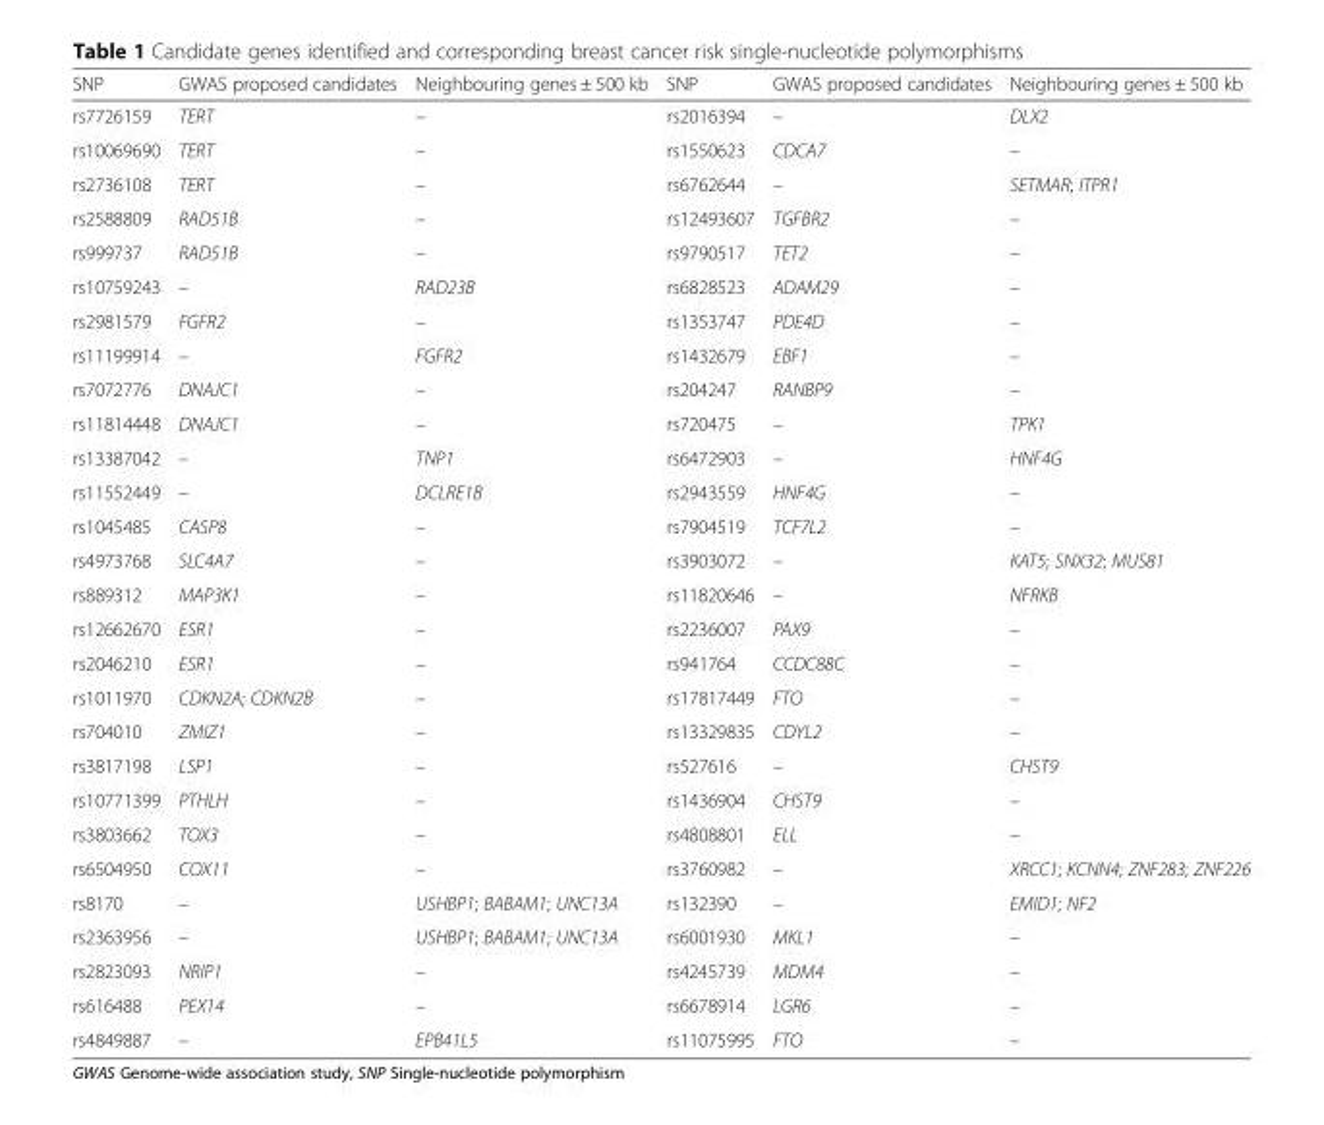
<table><thead><tr><td>SNP</td><td>GWAS proposed candidates</td><td>Neighbouring genes ± 500 kb</td><td>SNP</td><td>GWAS proposed candidates</td><td>Neighbouring genes ± 500 kb</td></tr></thead><tbody><tr><td>rs7726159</td><td>TERT</td><td>–</td><td>rs2016394</td><td>–</td><td>DLX2</td></tr><tr><td>rs10069690</td><td>TERT</td><td>–</td><td>rs1550623</td><td>CDCA7</td><td>–</td></tr><tr><td>rs2736108</td><td>TERT</td><td>–</td><td>rs6762644</td><td>–</td><td>SETMAR; ITPR1</td></tr><tr><td>rs2588809</td><td>RAD51B</td><td>–</td><td>rs12493607</td><td>TGFBR2</td><td>–</td></tr><tr><td>rs999737</td><td>RAD51B</td><td>–</td><td>rs9790517</td><td>TET2</td><td>–</td></tr><tr><td>rs10759243</td><td>–</td><td>RAD23B</td><td>rs6828523</td><td>ADAM29</td><td>–</td></tr><tr><td>rs2981579</td><td>FGFR2</td><td>–</td><td>rs1353747</td><td>PDE4D</td><td>–</td></tr><tr><td>rs11199914</td><td>–</td><td>FGFR2</td><td>rs1432679</td><td>EBF1</td><td>–</td></tr><tr><td>rs7072776</td><td>DNAJC1</td><td>–</td><td>rs204247</td><td>RANBP9</td><td>–</td></tr><tr><td>rs11814448</td><td>DNAJC1</td><td>–</td><td>rs720475</td><td>–</td><td>TPK1</td></tr><tr><td>rs13387042</td><td>–</td><td>TNP1</td><td>rs6472903</td><td>–</td><td>HNF4G</td></tr><tr><td>rs11552449</td><td>–</td><td>DCLRE1B</td><td>rs2943559</td><td>HNF4G</td><td>–</td></tr><tr><td>rs1045485</td><td>CASP8</td><td>–</td><td>rs7904519</td><td>TCF7L2</td><td>–</td></tr><tr><td>rs4973768</td><td>SLC4A7</td><td>–</td><td>rs3903072</td><td>–</td><td>KAT5; SNX32; MUS81</td></tr><tr><td>rs889312</td><td>MAP3K1</td><td>–</td><td>rs11820646</td><td>–</td><td>NFRKB</td></tr><tr><td>rs12662670</td><td>ESR1</td><td>–</td><td>rs2236007</td><td>PAX9</td><td>–</td></tr><tr><td>rs2046210</td><td>ESR1</td><td>–</td><td>rs941764</td><td>CCDC88C</td><td>–</td></tr><tr><td>rs1011970</td><td>CDKN2A; CDKN2B</td><td>–</td><td>rs17817449</td><td>FTO</td><td>–</td></tr><tr><td>rs704010</td><td>ZMIZ1</td><td>–</td><td>rs13329835</td><td>CDYL2</td><td>–</td></tr><tr><td>rs3817198</td><td>LSP1</td><td>–</td><td>rs527616</td><td>–</td><td>CHST9</td></tr><tr><td>rs10771399</td><td>PTHLH</td><td>–</td><td>rs1436904</td><td>CHST9</td><td>–</td></tr><tr><td>rs3803662</td><td>TOX3</td><td>–</td><td>rs4808801</td><td>ELL</td><td>–</td></tr><tr><td>rs6504950</td><td>COX11</td><td>–</td><td>rs3760982</td><td>–</td><td>XRCC1; KCNN4; ZNF283; ZNF226</td></tr><tr><td>rs8170</td><td>–</td><td>USHBP1; BABAM1; UNC13A</td><td>rs132390</td><td>–</td><td>EMID1; NF2</td></tr><tr><td>rs2363956</td><td>–</td><td>USHBP1; BABAM1; UNC13A</td><td>rs6001930</td><td>MKL1</td><td>–</td></tr><tr><td>rs2823093</td><td>NRIP1</td><td>–</td><td>rs4245739</td><td>MDM4</td><td>–</td></tr><tr><td>rs616488</td><td>PEX14</td><td>–</td><td>rs6678914</td><td>LGR6</td><td>–</td></tr><tr><td>rs4849887</td><td>–</td><td>EPB41L5</td><td>rs11075995</td><td>FTO</td><td>–</td></tr></tbody></table>